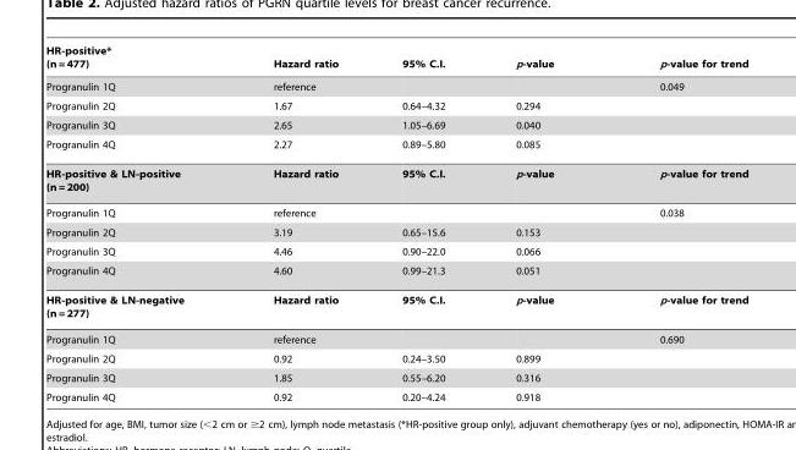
<table><thead><tr><td>HR-positive* (n = 477)</td><td>Hazard ratio</td><td>95% C.I.</td><td>p-value</td><td>p-value for trend</td></tr></thead><tbody><tr><td>Progranulin 1Q</td><td>reference</td><td></td><td></td><td>0.049</td></tr><tr><td>Progranulin 2Q</td><td>1.67</td><td>0.64–4.32</td><td>0.294</td><td></td></tr><tr><td>Progranulin 3Q</td><td>2.65</td><td>1.05–6.69</td><td>0.040</td><td></td></tr><tr><td>Progranulin 4Q</td><td>2.27</td><td>0.89–5.80</td><td>0.085</td><td></td></tr><tr><td>HR-positive &amp; LN-positive (n = 200)</td><td>Hazard ratio</td><td>95% C.I.</td><td>p-value</td><td>p-value for trend</td></tr><tr><td>Progranulin 1Q</td><td>reference</td><td></td><td></td><td>0.038</td></tr><tr><td>Progranulin 2Q</td><td>3.19</td><td>0.65–15.6</td><td>0.153</td><td></td></tr><tr><td>Progranulin 3Q</td><td>4.46</td><td>0.90–22.0</td><td>0.066</td><td></td></tr><tr><td>Progranulin 4Q</td><td>4.60</td><td>0.99–21.3</td><td>0.051</td><td></td></tr><tr><td>HR-positive &amp; LN-negative (n = 277)</td><td>Hazard ratio</td><td>95% C.I.</td><td>p-value</td><td>p-value for trend</td></tr><tr><td>Progranulin 1Q</td><td>reference</td><td></td><td></td><td>0.690</td></tr><tr><td>Progranulin 2Q</td><td>0.92</td><td>0.24–3.50</td><td>0.899</td><td></td></tr><tr><td>Progranulin 3Q</td><td>1.85</td><td>0.55–6.20</td><td>0.316</td><td></td></tr><tr><td>Progranulin 4Q</td><td>0.92</td><td>0.20–4.24</td><td>0.918</td><td></td></tr></tbody></table>